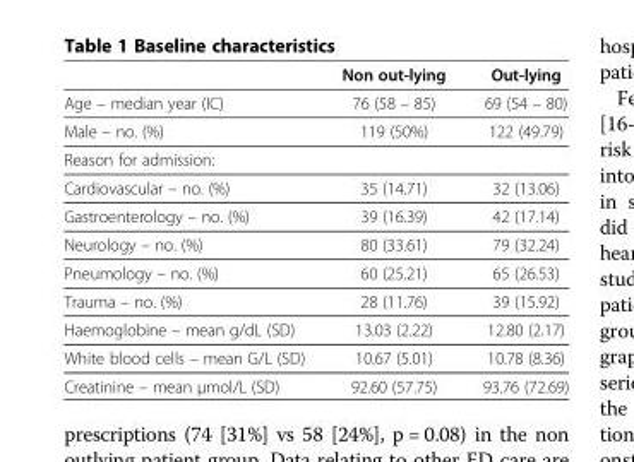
<table><thead><tr><td></td><td>Non out-lying</td><td>Out-lying</td></tr></thead><tbody><tr><td>Age – median year (IC)</td><td>76 (58 – 85)</td><td>69 (54 – 80)</td></tr><tr><td>Male – no. (%)</td><td>119 (50%)</td><td>122 (49.79)</td></tr><tr><td colspan="3">Reason for admission:</td></tr><tr><td>Cardiovascular – no. (%)</td><td>35 (14.71)</td><td>32 (13.06)</td></tr><tr><td>Gastroenterology – no. (%)</td><td>39 (16.39)</td><td>42 (17.14)</td></tr><tr><td>Neurology – no. (%)</td><td>80 (33.61)</td><td>79 (32.24)</td></tr><tr><td>Pneumology – no. (%)</td><td>60 (25.21)</td><td>65 (26.53)</td></tr><tr><td>Trauma – no. (%)</td><td>28 (11.76)</td><td>39 (15.92)</td></tr><tr><td>Haemoglobine – mean g/dL (SD)</td><td>13.03 (2.22)</td><td>12.80 (2.17)</td></tr><tr><td>White blood cells – mean G/L (SD)</td><td>10.67 (5.01)</td><td>10.78 (8.36)</td></tr><tr><td>Creatinine – mean μmol/L (SD)</td><td>92.60 (57.75)</td><td>93.76 (72.69)</td></tr></tbody></table>